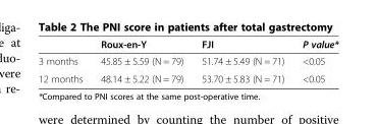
<table><thead><tr><td></td><td>Roux-en-Y</td><td>FJI</td><td>P value*</td></tr></thead><tbody><tr><td>3 months</td><td>45.85 ± 5.59 (N = 79)</td><td>51.74 ± 5.49 (N = 71)</td><td>&lt;0.05</td></tr><tr><td>12 months</td><td>48.14 ± 5.22 (N = 79)</td><td>53.70 ± 5.83 (N = 71)</td><td>&lt;0.05</td></tr></tbody></table>